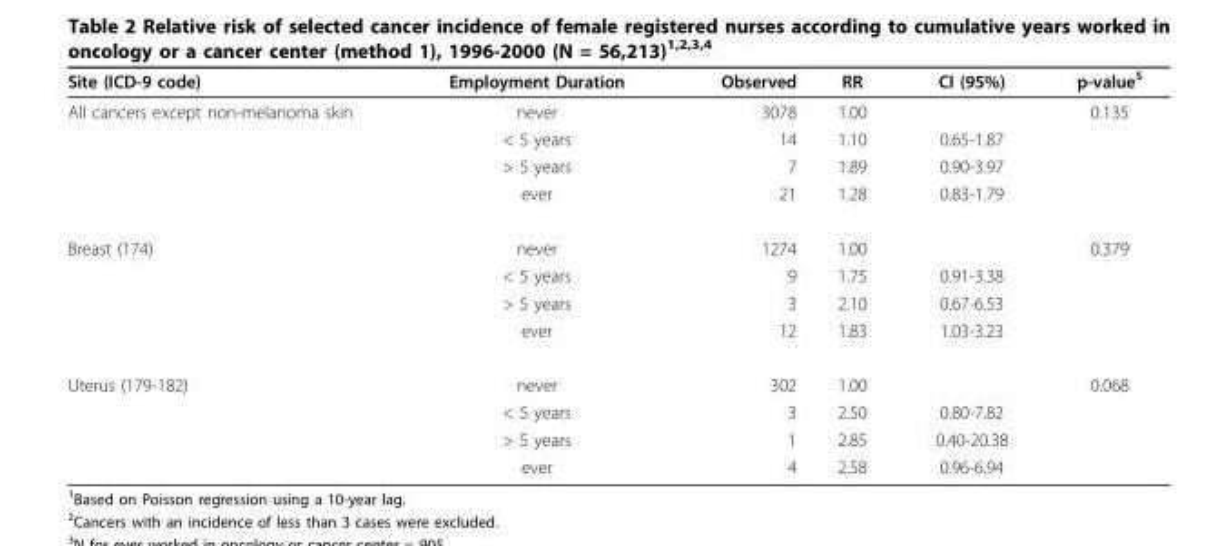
<table><thead><tr><td>Site (ICD-9 code)</td><td>Employment Duration</td><td>Observed</td><td>RR</td><td>CI (95%)</td><td>p-value<sup>5</sup></td></tr></thead><tbody><tr><td rowspan="4">All cancers except non-melanoma skin</td><td>never</td><td>3078</td><td>1.00</td><td></td><td>0.135</td></tr><tr><td>&lt; 5 years</td><td>14</td><td>1.10</td><td>0.65-1.87</td><td></td></tr><tr><td>&gt; 5 years</td><td>7</td><td>1.89</td><td>0.90-3.97</td><td></td></tr><tr><td>ever</td><td>21</td><td>1.28</td><td>0.83-1.79</td><td></td></tr><tr><td rowspan="4">Breast (174)</td><td>never</td><td>1274</td><td>1.00</td><td></td><td>0.379</td></tr><tr><td>&lt; 5 years</td><td>9</td><td>1.75</td><td>0.91-3.38</td><td></td></tr><tr><td>&gt; 5 years</td><td>3</td><td>2.10</td><td>0.67-6.53</td><td></td></tr><tr><td>ever</td><td>12</td><td>1.83</td><td>1.03-3.23</td><td></td></tr><tr><td rowspan="4">Uterus (179-182)</td><td>never</td><td>302</td><td>1.00</td><td></td><td>0.068</td></tr><tr><td>&lt; 5 years</td><td>3</td><td>2.50</td><td>0.80-7.82</td><td></td></tr><tr><td>&gt; 5 years</td><td>1</td><td>2.85</td><td>0.40-20.38</td><td></td></tr><tr><td>ever</td><td>4</td><td>2.58</td><td>0.96-6.94</td><td></td></tr></tbody></table>